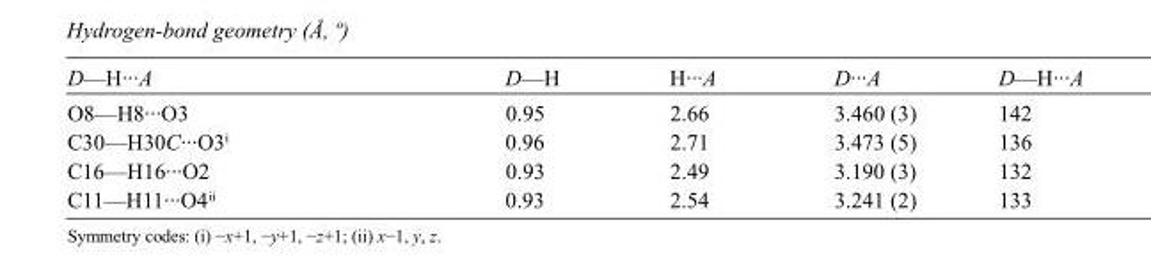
<table><tbody><tr><td>D—H···A</td><td>D—H</td><td>H···A</td><td>D···A</td><td>D—H···A</td></tr><tr><td>O8—H8···O3</td><td>0.95</td><td>2.66</td><td>3.460 (3)</td><td>142</td></tr><tr><td>C30—H30C···O3<sup>i</sup></td><td>0.96</td><td>2.71</td><td>3.473 (5)</td><td>136</td></tr><tr><td>C16—H16···O2</td><td>0.93</td><td>2.49</td><td>3.190 (3)</td><td>132</td></tr><tr><td>C11—H11···O4<sup>ii</sup></td><td>0.93</td><td>2.54</td><td>3.241 (2)</td><td>133</td></tr></tbody></table>